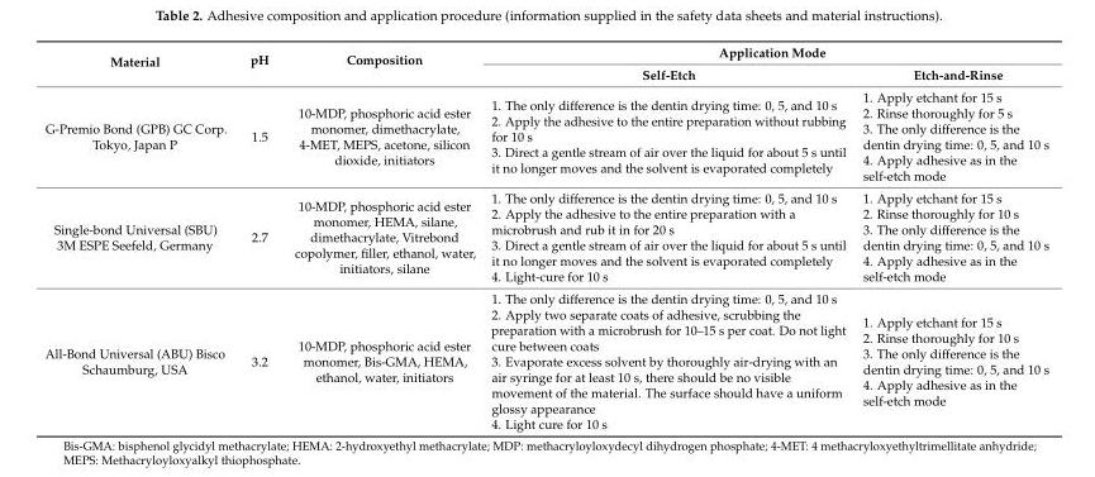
<table><thead><tr><td rowspan="2">Material</td><td rowspan="2">pH</td><td rowspan="2">Composition</td><td colspan="2">Application Mode</td></tr><tr><td>Self-Etch</td><td>Etch-and-Rinse</td></tr></thead><tbody><tr><td>G-Premio Bond (GPB) GC Corp. Tokyo, Japan P</td><td>1.5</td><td>10-MDP, phosphoric acid ester monomer, dimethacrylate, 4-MET, MEPS, acetone, silicon dioxide, initiators</td><td>1. The only difference is the dentin drying time: 0, 5, and 10 s 2. Apply the adhesive to the entire preparation without rubbing for 10 s 3. Direct a gentle stream of air over the liquid for about 5 s until it no longer moves and the solvent is evaporated completely</td><td>1. Apply etchant for 15 s 2. Rinse thoroughly for 5 s 3. The only difference is the dentin drying time: 0, 5, and 10 s 4. Apply adhesive as in the self-etch mode</td></tr><tr><td>Single-bond Universal (SBU) 3M ESPE Seefeld, Germany</td><td>2.7</td><td>10-MDP, phosphoric acid ester monomer, HEMA, silane, dimethacrylate, Vitrebond copolymer, filler, ethanol, water, initiators, silane</td><td>1. The only difference is the dentin drying time: 0, 5, and 10 s 2. Apply the adhesive to the entire preparation with a microbrush and rub it in for 20 s 3. Direct a gentle stream of air over the liquid for about 5 s until it no longer moves and the solvent is evaporated completely 4. Light-cure for 10 s</td><td>1. Apply etchant for 15 s 2. Rinse thoroughly for 10 s 3. The only difference is the dentin drying time: 0, 5, and 10 s 4. Apply adhesive as in the self-etch mode</td></tr><tr><td>All-Bond Universal (ABU) Bisco Schaumburg, USA</td><td>3.2</td><td>10-MDP, phosphoric acid ester monomer, Bis-GMA, HEMA, ethanol, water, initiators</td><td>1. The only difference is the dentin drying time: 0, 5, and 10 s 2. Apply two separate coats of adhesive, scrubbing the preparation with a microbrush for 10–15 s per coat. Do not light cure between coats 3. Evaporate excess solvent by thoroughly air-drying with an air syringe for at least 10 s, there should be no visible movement of the material. The surface should have a uniform glossy appearance 4. Light cure for 10 s</td><td>1. Apply etchant for 15 s 2. Rinse thoroughly for 10 s 3. The only difference is the dentin drying time: 0, 5, and 10 s 4. Apply adhesive as in the self-etch mode</td></tr></tbody></table>